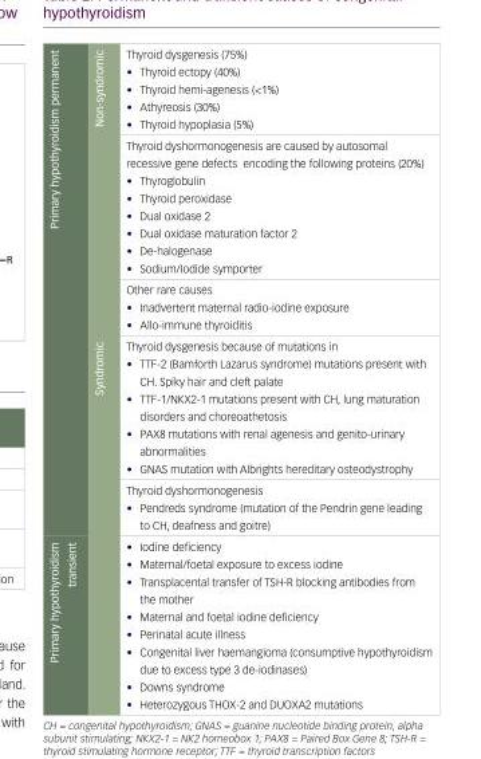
<table><tbody><tr><td rowspan="5">Primary hypothyroidism permanent</td><td rowspan="3">Non-syndromic</td><td>Thyroid dysgenesis (75%) • Thyroid ectopy (40%) • Thyroid hemi-agenesis (&lt;1%) • Athyreosis (30%) • Thyroid hypoplasia (5%)</td></tr><tr><td>Thyroid dyshormonogenesis are caused by autosomal recessive gene defects encoding the following proteins (20%) • Thyroglobulin • Thyroid peroxidase • Dual oxidase 2 • Dual oxidase maturation factor 2 • De-halogenase • Sodium/Iodide symporter</td></tr><tr><td>Other rare causes • Inadvertent maternal radio-iodine exposure • Allo-immune thyroiditis</td></tr><tr><td rowspan="3">Syndromic</td><td>Thyroid dysgenesis because of mutations in • TTF-2 (Bamforth Lazarus syndrome) mutations present with CH. Spiky hair and cleft palate • TTF-1/NKX2-1 mutations present with CH, lung maturation disorders and choreoathetosis • PAX8 mutations with renal agenesis and genito-urinary abnormalities • GNAS mutation with Albrights hereditary osteodystrophy</td></tr><tr><td>Thyroid dyshormonogenesis • Pendreds syndrome (mutation of the Pendrin gene leading to CH, deafness and goitre)</td></tr><tr><td>Primary hypothyroidism transient</td><td>• Iodine deficiency • Maternal/foetal exposure to excess iodine • Transplacental transfer of TSH-R blocking antibodies from the mother • Maternal and foetal iodine deficiency • Perinatal acute illness • Congenital liver haemangioma (consumptive hypothyroidism due to excess type 3 de-iodinases) • Downs syndrome • Heterozygous THOX-2 and DUOXA2 mutations</td></tr></tbody></table>